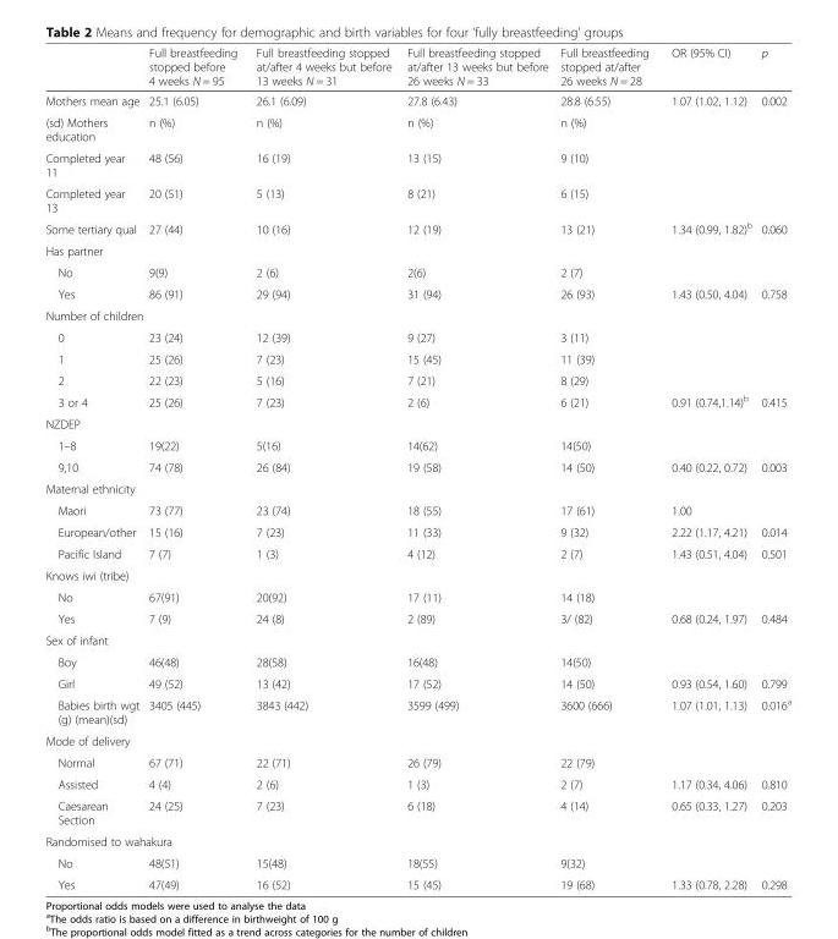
<table><thead><tr><td></td><td>Full breastfeeding stopped before 4 weeks N = 95</td><td>Full breastfeeding stopped at/after 4 weeks but before 13 weeks N = 31</td><td>Full breastfeeding stopped at/after 13 weeks but before 26 weeks N = 33</td><td>Full breastfeeding stopped at/after 26 weeks N = 28</td><td>OR (95% CI)</td><td>p</td></tr></thead><tbody><tr><td>Mothers mean age</td><td>25.1 (6.05)</td><td>26.1 (6.09)</td><td>27.8 (6.43)</td><td>28.8 (6.55)</td><td>1.07 (1.02, 1.12)</td><td>0.002</td></tr><tr><td>(sd) Mothers education</td><td>n (%)</td><td>n (%)</td><td>n (%)</td><td>n (%)</td><td></td><td></td></tr><tr><td>Completed year 11</td><td>48 (56)</td><td>16 (19)</td><td>13 (15)</td><td>9 (10)</td><td></td><td></td></tr><tr><td>Completed year 13</td><td>20 (51)</td><td>5 (13)</td><td>8 (21)</td><td>6 (15)</td><td></td><td></td></tr><tr><td>Some tertiary qual</td><td>27 (44)</td><td>10 (16)</td><td>12 (19)</td><td>13 (21)</td><td>1.34 (0.99, 1.82)<sup>b</sup></td><td>0.060</td></tr><tr><td colspan="7">Has partner</td></tr><tr><td>No</td><td>9(9)</td><td>2 (6)</td><td>2(6)</td><td>2 (7)</td><td></td><td></td></tr><tr><td>Yes</td><td>86 (91)</td><td>29 (94)</td><td>31 (94)</td><td>26 (93)</td><td>1.43 (0.50, 4.04)</td><td>0.758</td></tr><tr><td colspan="7">Number of children</td></tr><tr><td>0</td><td>23 (24)</td><td>12 (39)</td><td>9 (27)</td><td>3 (11)</td><td></td><td></td></tr><tr><td>1</td><td>25 (26)</td><td>7 (23)</td><td>15 (45)</td><td>11 (39)</td><td></td><td></td></tr><tr><td>2</td><td>22 (23)</td><td>5 (16)</td><td>7 (21)</td><td>8 (29)</td><td></td><td></td></tr><tr><td>3 or 4</td><td>25 (26)</td><td>7 (23)</td><td>2 (6)</td><td>6 (21)</td><td>0.91 (0.74,1.14)<sup>b</sup></td><td>0.415</td></tr><tr><td colspan="7">NZDEP</td></tr><tr><td>1–8</td><td>19(22)</td><td>5(16)</td><td>14(62)</td><td>14(50)</td><td></td><td></td></tr><tr><td>9,10</td><td>74 (78)</td><td>26 (84)</td><td>19 (58)</td><td>14 (50)</td><td>0.40 (0.22, 0.72)</td><td>0.003</td></tr><tr><td colspan="7">Maternal ethnicity</td></tr><tr><td>Maori</td><td>73 (77)</td><td>23 (74)</td><td>18 (55)</td><td>17 (61)</td><td>1.00</td><td></td></tr><tr><td>European/other</td><td>15 (16)</td><td>7 (23)</td><td>11 (33)</td><td>9 (32)</td><td>2.22 (1.17, 4.21)</td><td>0.014</td></tr><tr><td>Pacific Island</td><td>7 (7)</td><td>1 (3)</td><td>4 (12)</td><td>2 (7)</td><td>1.43 (0.51, 4.04)</td><td>0.501</td></tr><tr><td colspan="7">Knows iwi (tribe)</td></tr><tr><td>No</td><td>67(91)</td><td>20(92)</td><td>17 (11)</td><td>14 (18)</td><td></td><td></td></tr><tr><td>Yes</td><td>7 (9)</td><td>24 (8)</td><td>2 (89)</td><td>3/ (82)</td><td>0.68 (0.24, 1.97)</td><td>0.484</td></tr><tr><td colspan="7">Sex of infant</td></tr><tr><td>Boy</td><td>46(48)</td><td>28(58)</td><td>16(48)</td><td>14(50)</td><td></td><td></td></tr><tr><td>Girl</td><td>49 (52)</td><td>13 (42)</td><td>17 (52)</td><td>14 (50)</td><td>0.93 (0.54, 1.60)</td><td>0.799</td></tr><tr><td>Babies birth wgt (g) (mean)(sd)</td><td>3405 (445)</td><td>3843 (442)</td><td>3599 (499)</td><td>3600 (666)</td><td>1.07 (1.01, 1.13)</td><td>0.016<sup>a</sup></td></tr><tr><td colspan="7">Mode of delivery</td></tr><tr><td>Normal</td><td>67 (71)</td><td>22 (71)</td><td>26 (79)</td><td>22 (79)</td><td></td><td></td></tr><tr><td>Assisted</td><td>4 (4)</td><td>2 (6)</td><td>1 (3)</td><td>2 (7)</td><td>1.17 (0.34, 4.06)</td><td>0.810</td></tr><tr><td>Caesarean Section</td><td>24 (25)</td><td>7 (23)</td><td>6 (18)</td><td>4 (14)</td><td>0.65 (0.33, 1.27)</td><td>0.203</td></tr><tr><td colspan="7">Randomised to wahakura</td></tr><tr><td>No</td><td>48(51)</td><td>15(48)</td><td>18(55)</td><td>9(32)</td><td></td><td></td></tr><tr><td>Yes</td><td>47(49)</td><td>16 (52)</td><td>15 (45)</td><td>19 (68)</td><td>1.33 (0.78, 2.28)</td><td>0.298</td></tr></tbody></table>